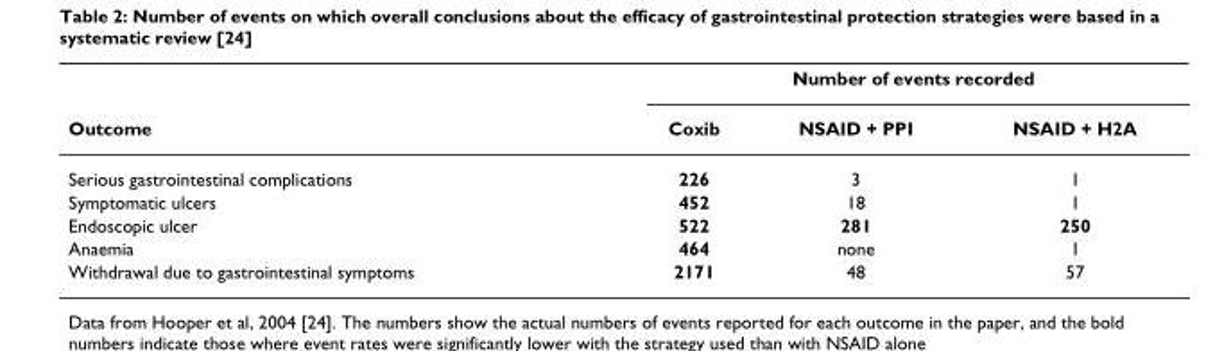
<table><thead><tr><td rowspan="2">Outcome</td><td colspan="3">Number of events recorded</td></tr><tr><td>Coxib</td><td>NSAID + PPI</td><td>NSAID + H2A</td></tr></thead><tbody><tr><td>Serious gastrointestinal complications</td><td>226</td><td>3</td><td>1</td></tr><tr><td>Symptomatic ulcers</td><td>452</td><td>18</td><td>1</td></tr><tr><td>Endoscopic ulcer</td><td>522</td><td>281</td><td>250</td></tr><tr><td>Anaemia</td><td>464</td><td>none</td><td>1</td></tr><tr><td>Withdrawal due to gastrointestinal symptoms</td><td>2171</td><td>48</td><td>57</td></tr></tbody></table>